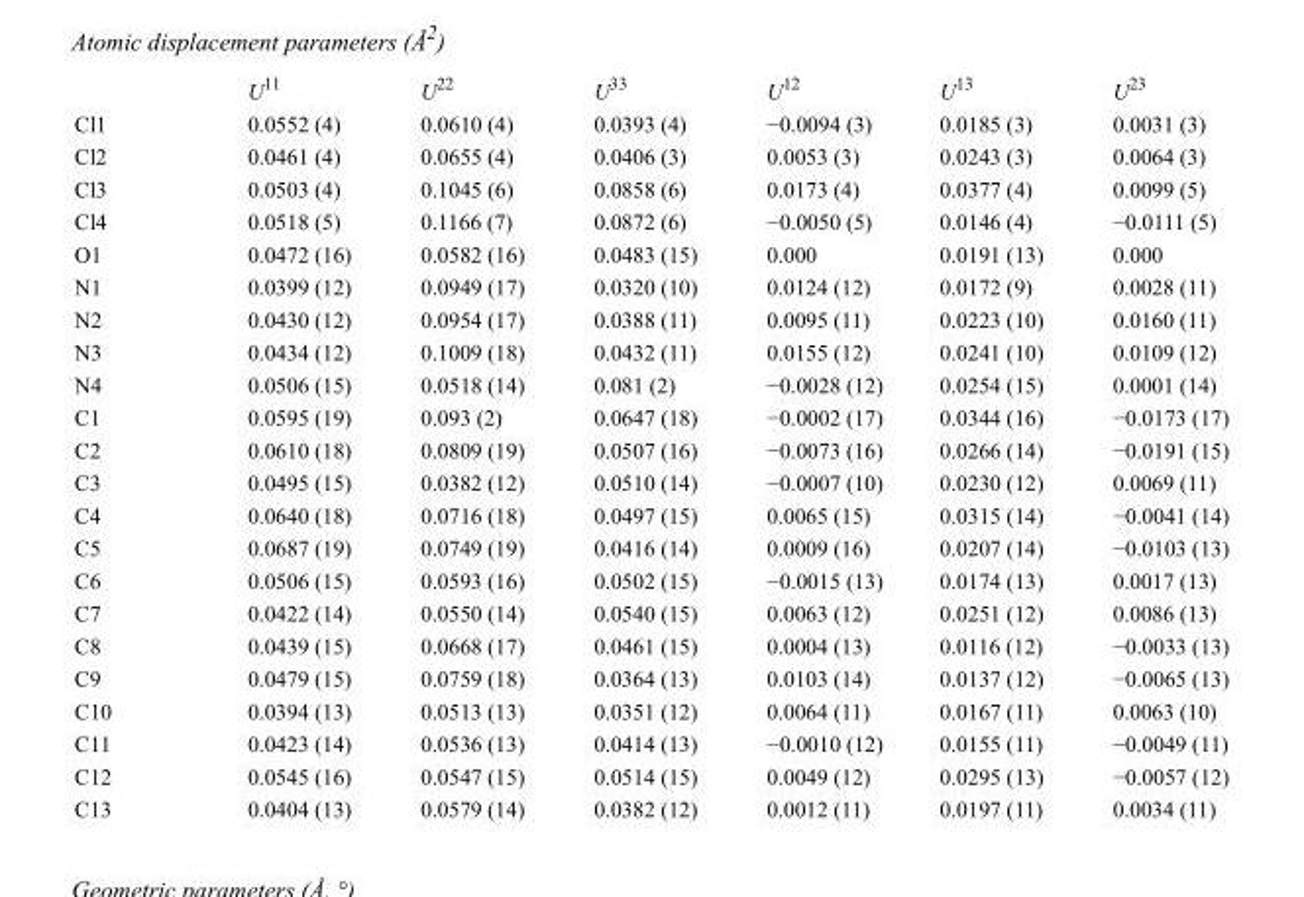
<table><thead><tr><td></td><td>U<sup>11</sup></td><td>U<sup>22</sup></td><td>U<sup>33</sup></td><td>U<sup>12</sup></td><td>U<sup>13</sup></td><td>U<sup>23</sup></td></tr></thead><tbody><tr><td>Cl1</td><td>0.0552 (4)</td><td>0.0610 (4)</td><td>0.0393 (4)</td><td>−0.0094 (3)</td><td>0.0185 (3)</td><td>0.0031 (3)</td></tr><tr><td>Cl2</td><td>0.0461 (4)</td><td>0.0655 (4)</td><td>0.0406 (3)</td><td>0.0053 (3)</td><td>0.0243 (3)</td><td>0.0064 (3)</td></tr><tr><td>Cl3</td><td>0.0503 (4)</td><td>0.1045 (6)</td><td>0.0858 (6)</td><td>0.0173 (4)</td><td>0.0377 (4)</td><td>0.0099 (5)</td></tr><tr><td>Cl4</td><td>0.0518 (5)</td><td>0.1166 (7)</td><td>0.0872 (6)</td><td>−0.0050 (5)</td><td>0.0146 (4)</td><td>−0.0111 (5)</td></tr><tr><td>O1</td><td>0.0472 (16)</td><td>0.0582 (16)</td><td>0.0483 (15)</td><td>0.000</td><td>0.0191 (13)</td><td>0.000</td></tr><tr><td>N1</td><td>0.0399 (12)</td><td>0.0949 (17)</td><td>0.0320 (10)</td><td>0.0124 (12)</td><td>0.0172 (9)</td><td>0.0028 (11)</td></tr><tr><td>N2</td><td>0.0430 (12)</td><td>0.0954 (17)</td><td>0.0388 (11)</td><td>0.0095 (11)</td><td>0.0223 (10)</td><td>0.0160 (11)</td></tr><tr><td>N3</td><td>0.0434 (12)</td><td>0.1009 (18)</td><td>0.0432 (11)</td><td>0.0155 (12)</td><td>0.0241 (10)</td><td>0.0109 (12)</td></tr><tr><td>N4</td><td>0.0506 (15)</td><td>0.0518 (14)</td><td>0.081 (2)</td><td>−0.0028 (12)</td><td>0.0254 (15)</td><td>0.0001 (14)</td></tr><tr><td>C1</td><td>0.0595 (19)</td><td>0.093 (2)</td><td>0.0647 (18)</td><td>−0.0002 (17)</td><td>0.0344 (16)</td><td>−0.0173 (17)</td></tr><tr><td>C2</td><td>0.0610 (18)</td><td>0.0809 (19)</td><td>0.0507 (16)</td><td>−0.0073 (16)</td><td>0.0266 (14)</td><td>−0.0191 (15)</td></tr><tr><td>C3</td><td>0.0495 (15)</td><td>0.0382 (12)</td><td>0.0510 (14)</td><td>−0.0007 (10)</td><td>0.0230 (12)</td><td>0.0069 (11)</td></tr><tr><td>C4</td><td>0.0640 (18)</td><td>0.0716 (18)</td><td>0.0497 (15)</td><td>0.0065 (15)</td><td>0.0315 (14)</td><td>−0.0041 (14)</td></tr><tr><td>C5</td><td>0.0687 (19)</td><td>0.0749 (19)</td><td>0.0416 (14)</td><td>0.0009 (16)</td><td>0.0207 (14)</td><td>−0.0103 (13)</td></tr><tr><td>C6</td><td>0.0506 (15)</td><td>0.0593 (16)</td><td>0.0502 (15)</td><td>−0.0015 (13)</td><td>0.0174 (13)</td><td>0.0017 (13)</td></tr><tr><td>C7</td><td>0.0422 (14)</td><td>0.0550 (14)</td><td>0.0540 (15)</td><td>0.0063 (12)</td><td>0.0251 (12)</td><td>0.0086 (13)</td></tr><tr><td>C8</td><td>0.0439 (15)</td><td>0.0668 (17)</td><td>0.0461 (15)</td><td>0.0004 (13)</td><td>0.0116 (12)</td><td>−0.0033 (13)</td></tr><tr><td>C9</td><td>0.0479 (15)</td><td>0.0759 (18)</td><td>0.0364 (13)</td><td>0.0103 (14)</td><td>0.0137 (12)</td><td>−0.0065 (13)</td></tr><tr><td>C10</td><td>0.0394 (13)</td><td>0.0513 (13)</td><td>0.0351 (12)</td><td>0.0064 (11)</td><td>0.0167 (11)</td><td>0.0063 (10)</td></tr><tr><td>C11</td><td>0.0423 (14)</td><td>0.0536 (13)</td><td>0.0414 (13)</td><td>−0.0010 (12)</td><td>0.0155 (11)</td><td>−0.0049 (11)</td></tr><tr><td>C12</td><td>0.0545 (16)</td><td>0.0547 (15)</td><td>0.0514 (15)</td><td>0.0049 (12)</td><td>0.0295 (13)</td><td>−0.0057 (12)</td></tr><tr><td>C13</td><td>0.0404 (13)</td><td>0.0579 (14)</td><td>0.0382 (12)</td><td>0.0012 (11)</td><td>0.0197 (11)</td><td>0.0034 (11)</td></tr></tbody></table>